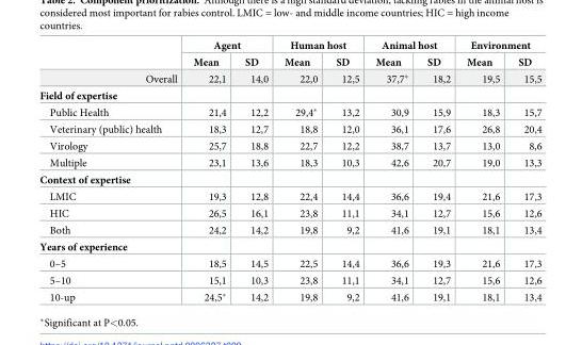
<table><thead><tr><td rowspan="2"></td><td colspan="2">Agent</td><td colspan="2">Human host</td><td colspan="2">Animal host</td><td colspan="2">Environment</td></tr><tr><td>Mean</td><td>SD</td><td>Mean</td><td>SD</td><td>Mean</td><td>SD</td><td>Mean</td><td>SD</td></tr></thead><tbody><tr><td>Overall</td><td>22,1</td><td>14,0</td><td>22,0</td><td>12,5</td><td>37,7*</td><td>18,2</td><td>19,5</td><td>15,5</td></tr><tr><td colspan="9">Field of expertise</td></tr><tr><td>Public Health</td><td>21,4</td><td>12,2</td><td>29,4*</td><td>13,2</td><td>30,9</td><td>15,9</td><td>18,3</td><td>15,7</td></tr><tr><td>Veterinary (public) health</td><td>18,3</td><td>12,7</td><td>18,8</td><td>12,0</td><td>36,1</td><td>17,6</td><td>26,8</td><td>20,4</td></tr><tr><td>Virology</td><td>25,7</td><td>18,8</td><td>22,7</td><td>12,2</td><td>38,7</td><td>13,7</td><td>13,0</td><td>8,6</td></tr><tr><td>Multiple</td><td>23,1</td><td>13,6</td><td>18,3</td><td>10,3</td><td>42,6</td><td>20,7</td><td>19,0</td><td>13,3</td></tr><tr><td colspan="9">Context of expertise</td></tr><tr><td>LMIC</td><td>19,3</td><td>12,8</td><td>22,4</td><td>14,4</td><td>36,6</td><td>19,4</td><td>21,6</td><td>17,3</td></tr><tr><td>HIC</td><td>26,5</td><td>16,1</td><td>23,8</td><td>11,1</td><td>34,1</td><td>12,7</td><td>15,6</td><td>12,6</td></tr><tr><td>Both</td><td>24,2</td><td>14,2</td><td>19,8</td><td>9,2</td><td>41,6</td><td>19,1</td><td>18,1</td><td>13,4</td></tr><tr><td colspan="9">Years of experience</td></tr><tr><td>0–5</td><td>18,5</td><td>14,5</td><td>22,5</td><td>14,4</td><td>36,6</td><td>19,3</td><td>21,6</td><td>17,3</td></tr><tr><td>5–10</td><td>15,1</td><td>10,3</td><td>23,8</td><td>11,1</td><td>34,1</td><td>12,7</td><td>15,6</td><td>12,6</td></tr><tr><td>10-up</td><td>24,5*</td><td>14,2</td><td>19,8</td><td>9,2</td><td>41,6</td><td>19,1</td><td>18,1</td><td>13,4</td></tr></tbody></table>